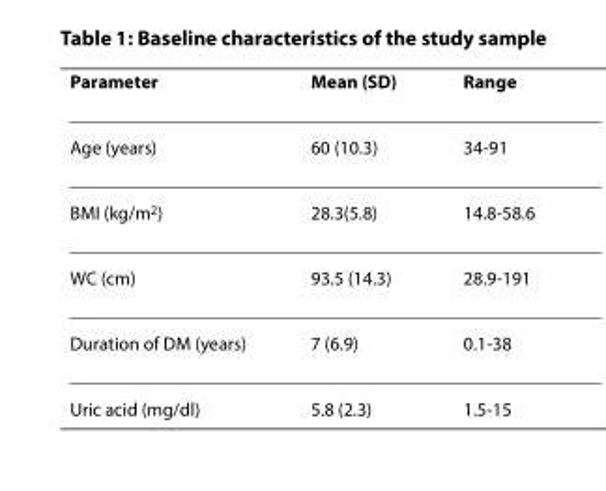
<table><thead><tr><td>Parameter</td><td>Mean (SD)</td><td>Range</td></tr></thead><tbody><tr><td>Age (years)</td><td>60 (10.3)</td><td>34-91</td></tr><tr><td>BMI (kg/m<sup>2</sup>)</td><td>28.3(5.8)</td><td>14.8-58.6</td></tr><tr><td>WC (cm)</td><td>93.5 (14.3)</td><td>28.9-191</td></tr><tr><td>Duration of DM (years)</td><td>7 (6.9)</td><td>0.1-38</td></tr><tr><td>Uric acid (mg/dl)</td><td>5.8 (2.3)</td><td>1.5-15</td></tr></tbody></table>